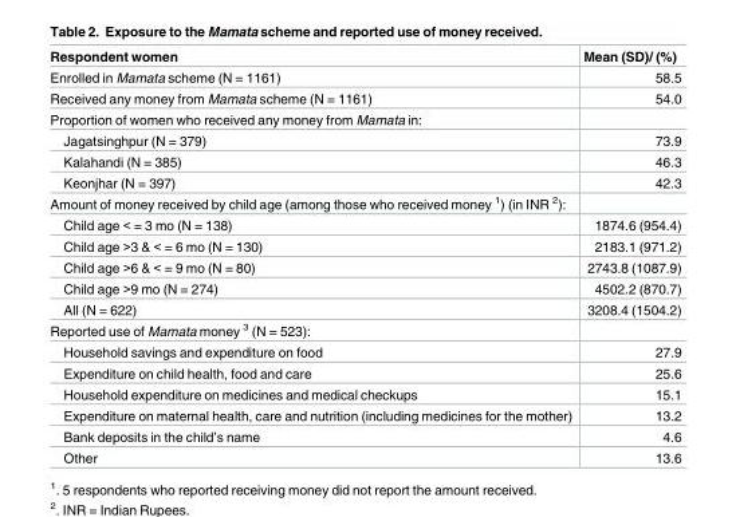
<table><thead><tr><td>Respondent women</td><td>Mean (SD)/ (%)</td></tr></thead><tbody><tr><td>Enrolled in Mamata scheme (N = 1161)</td><td>58.5</td></tr><tr><td>Received any money from Mamata scheme (N = 1161)</td><td>54.0</td></tr><tr><td colspan="2">Proportion of women who received any money from Mamata in:</td></tr><tr><td>Jagatsinghpur (N = 379)</td><td>73.9</td></tr><tr><td>Kalahandi (N = 385)</td><td>46.3</td></tr><tr><td>Keonjhar (N = 397)</td><td>42.3</td></tr><tr><td colspan="2">Amount of money received by child age (among those who received money <sup>1</sup>) (in INR <sup>2</sup>):</td></tr><tr><td>Child age &lt; = 3 mo (N = 138)</td><td>1874.6 (954.4)</td></tr><tr><td>Child age &gt;3 &amp; &lt; = 6 mo (N = 130)</td><td>2183.1 (971.2)</td></tr><tr><td>Child age &gt;6 &amp; &lt; = 9 mo (N = 80)</td><td>2743.8 (1087.9)</td></tr><tr><td>Child age &gt;9 mo (N = 274)</td><td>4502.2 (870.7)</td></tr><tr><td>All (N = 622)</td><td>3208.4 (1504.2)</td></tr><tr><td colspan="2">Reported use of Mamata money <sup>3</sup> (N = 523):</td></tr><tr><td>Household savings and expenditure on food</td><td>27.9</td></tr><tr><td>Expenditure on child health, food and care</td><td>25.6</td></tr><tr><td>Household expenditure on medicines and medical checkups</td><td>15.1</td></tr><tr><td>Expenditure on maternal health, care and nutrition (including medicines for the mother)</td><td>13.2</td></tr><tr><td>Bank deposits in the child’s name</td><td>4.6</td></tr><tr><td>Other</td><td>13.6</td></tr></tbody></table>